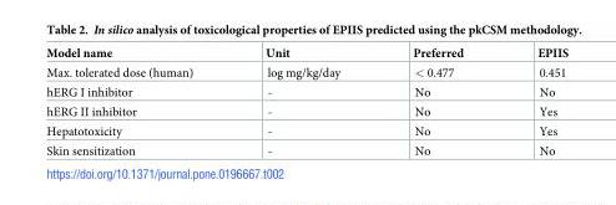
<table><thead><tr><td>Model name</td><td>Unit</td><td>Preferred</td><td>EPIIS</td></tr></thead><tbody><tr><td>Max. tolerated dose (human)</td><td>log mg/kg/day</td><td>&lt; 0.477</td><td>0.451</td></tr><tr><td>hERG I inhibitor</td><td>-</td><td>No</td><td>No</td></tr><tr><td>hERG II inhibitor</td><td>-</td><td>No</td><td>Yes</td></tr><tr><td>Hepatotoxicity</td><td>-</td><td>No</td><td>Yes</td></tr><tr><td>Skin sensitization</td><td>-</td><td>No</td><td>No</td></tr></tbody></table>